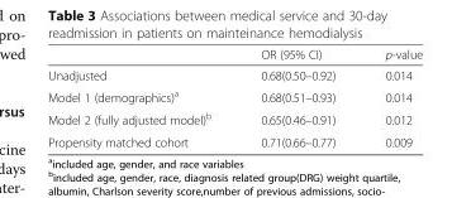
<table><thead><tr><td></td><td>OR (95% CI)</td><td>p-value</td></tr></thead><tbody><tr><td>Unadjusted</td><td>0.68(0.50–0.92)</td><td>0.014</td></tr><tr><td>Model 1 (demographics)<sup>a</sup></td><td>0.68(0.51–0.93)</td><td>0.014</td></tr><tr><td>Model 2 (fully adjusted model)<sup>b</sup></td><td>0.65(0.46–0.91)</td><td>0.012</td></tr><tr><td>Propensity matched cohort</td><td>0.71(0.66–0.77)</td><td>0.009</td></tr></tbody></table>